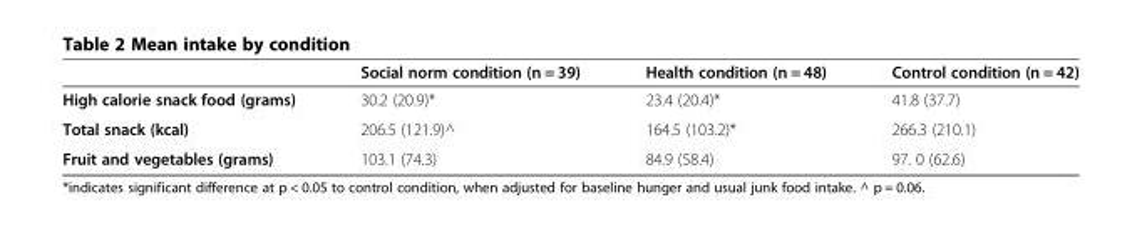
<table><thead><tr><td></td><td>Social norm condition (n = 39)</td><td>Health condition (n = 48)</td><td>Control condition (n = 42)</td></tr></thead><tbody><tr><td>High calorie snack food (grams)</td><td>30.2 (20.9)*</td><td>23.4 (20.4)*</td><td>41.8 (37.7)</td></tr><tr><td>Total snack (kcal)</td><td>206.5 (121.9)^</td><td>164.5 (103.2)*</td><td>266.3 (210.1)</td></tr><tr><td>Fruit and vegetables (grams)</td><td>103.1 (74.3)</td><td>84.9 (58.4)</td><td>97. 0 (62.6)</td></tr></tbody></table>